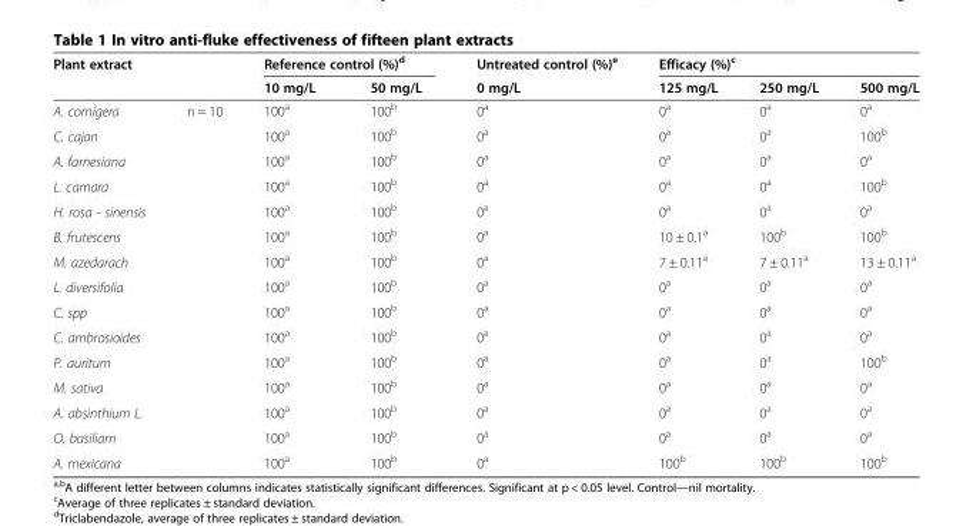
<table><thead><tr><td rowspan="2">Plant extract</td><td rowspan="2"></td><td colspan="2">Reference control (%)<sup>d</sup></td><td rowspan="2">Untreated control (%)<sup>e</sup> 0 mg/L</td><td colspan="3">Efficacy (%)<sup>c</sup></td></tr><tr><td>10 mg/L</td><td>50 mg/L</td><td>125 mg/L</td><td>250 mg/L</td><td>500 mg/L</td></tr></thead><tbody><tr><td>A. cornígera</td><td>n = 10</td><td>100<sup>a</sup></td><td>100<sup>b</sup></td><td>0<sup>a</sup></td><td>0<sup>a</sup></td><td>0<sup>a</sup></td><td>0<sup>a</sup></td></tr><tr><td>C. cajan</td><td></td><td>100<sup>a</sup></td><td>100<sup>b</sup></td><td>0<sup>a</sup></td><td>0<sup>a</sup></td><td>0<sup>a</sup></td><td>100<sup>b</sup></td></tr><tr><td>A. farnesiana</td><td></td><td>100<sup>a</sup></td><td>100<sup>b</sup></td><td>0<sup>a</sup></td><td>0<sup>a</sup></td><td>0<sup>a</sup></td><td>0<sup>a</sup></td></tr><tr><td>L. camara</td><td></td><td>100<sup>a</sup></td><td>100<sup>b</sup></td><td>0<sup>a</sup></td><td>0<sup>a</sup></td><td>0<sup>a</sup></td><td>100<sup>b</sup></td></tr><tr><td>H. rosa - sinensis</td><td></td><td>100<sup>a</sup></td><td>100<sup>b</sup></td><td>0<sup>a</sup></td><td>0<sup>a</sup></td><td>0<sup>a</sup></td><td>0<sup>a</sup></td></tr><tr><td>B. frutescens</td><td></td><td>100<sup>a</sup></td><td>100<sup>b</sup></td><td>0<sup>a</sup></td><td>10 ± 0.1<sup>a</sup></td><td>100<sup>b</sup></td><td>100<sup>b</sup></td></tr><tr><td>M. azedarach</td><td></td><td>100<sup>a</sup></td><td>100<sup>b</sup></td><td>0<sup>a</sup></td><td>7 ± 0.11<sup>a</sup></td><td>7 ± 0.11<sup>a</sup></td><td>13 ± 0.11<sup>a</sup></td></tr><tr><td>L. diversifolia</td><td></td><td>100<sup>a</sup></td><td>100<sup>b</sup></td><td>0<sup>a</sup></td><td>0<sup>a</sup></td><td>0<sup>a</sup></td><td>0<sup>a</sup></td></tr><tr><td>C. spp</td><td></td><td>100<sup>a</sup></td><td>100<sup>b</sup></td><td>0<sup>a</sup></td><td>0<sup>a</sup></td><td>0<sup>a</sup></td><td>0<sup>a</sup></td></tr><tr><td>C. ambrosioides</td><td></td><td>100<sup>a</sup></td><td>100<sup>b</sup></td><td>0<sup>a</sup></td><td>0<sup>a</sup></td><td>0<sup>a</sup></td><td>0<sup>a</sup></td></tr><tr><td>P. auritum</td><td></td><td>100<sup>a</sup></td><td>100<sup>b</sup></td><td>0<sup>a</sup></td><td>0<sup>a</sup></td><td>0<sup>a</sup></td><td>100<sup>b</sup></td></tr><tr><td>M. sativa</td><td></td><td>100<sup>a</sup></td><td>100<sup>b</sup></td><td>0<sup>a</sup></td><td>0<sup>a</sup></td><td>0<sup>a</sup></td><td>0<sup>a</sup></td></tr><tr><td>A. absinthium L.</td><td></td><td>100<sup>a</sup></td><td>100<sup>b</sup></td><td>0<sup>a</sup></td><td>0<sup>a</sup></td><td>0<sup>a</sup></td><td>0<sup>a</sup></td></tr><tr><td>O. basiliam</td><td></td><td>100<sup>a</sup></td><td>100<sup>b</sup></td><td>0<sup>a</sup></td><td>0<sup>a</sup></td><td>0<sup>a</sup></td><td>0<sup>a</sup></td></tr><tr><td>A. mexicana</td><td></td><td>100<sup>a</sup></td><td>100<sup>b</sup></td><td>0<sup>a</sup></td><td>100<sup>b</sup></td><td>100<sup>b</sup></td><td>100<sup>b</sup></td></tr></tbody></table>